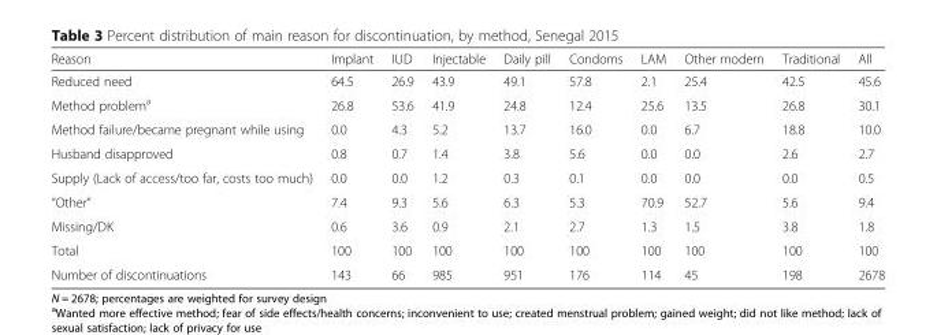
<table><thead><tr><td>Reason</td><td>Implant</td><td>IUD</td><td>Injectable</td><td>Daily pill</td><td>Condoms</td><td>LAM</td><td>Other modern</td><td>Traditional</td><td>All</td></tr></thead><tbody><tr><td>Reduced need</td><td>64.5</td><td>26.9</td><td>43.9</td><td>49.1</td><td>57.8</td><td>2.1</td><td>25.4</td><td>42.5</td><td>45.6</td></tr><tr><td>Method problem<sup>a</sup></td><td>26.8</td><td>53.6</td><td>41.9</td><td>24.8</td><td>12.4</td><td>25.6</td><td>13.5</td><td>26.8</td><td>30.1</td></tr><tr><td>Method failure/became pregnant while using</td><td>0.0</td><td>4.3</td><td>5.2</td><td>13.7</td><td>16.0</td><td>0.0</td><td>6.7</td><td>18.8</td><td>10.0</td></tr><tr><td>Husband disapproved</td><td>0.8</td><td>0.7</td><td>1.4</td><td>3.8</td><td>5.6</td><td>0.0</td><td>0.0</td><td>2.6</td><td>2.7</td></tr><tr><td>Supply (Lack of access/too far, costs too much)</td><td>0.0</td><td>0.0</td><td>1.2</td><td>0.3</td><td>0.1</td><td>0.0</td><td>0.0</td><td>0.0</td><td>0.5</td></tr><tr><td>“Other”</td><td>7.4</td><td>9.3</td><td>5.6</td><td>6.3</td><td>5.3</td><td>70.9</td><td>52.7</td><td>5.6</td><td>9.4</td></tr><tr><td>Missing/DK</td><td>0.6</td><td>3.6</td><td>0.9</td><td>2.1</td><td>2.7</td><td>1.3</td><td>1.5</td><td>3.8</td><td>1.8</td></tr><tr><td>Total</td><td>100</td><td>100</td><td>100</td><td>100</td><td>100</td><td>100</td><td>100</td><td>100</td><td>100</td></tr><tr><td>Number of discontinuations</td><td>143</td><td>66</td><td>985</td><td>951</td><td>176</td><td>114</td><td>45</td><td>198</td><td>2678</td></tr></tbody></table>